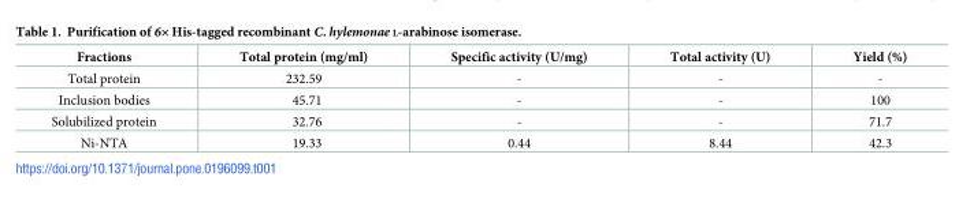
<table><thead><tr><td>Fractions</td><td>Total protein (mg/ml)</td><td>Specific activity (U/mg)</td><td>Total activity (U)</td><td>Yield (%)</td></tr></thead><tbody><tr><td>Total protein</td><td>232.59</td><td>-</td><td>-</td><td>-</td></tr><tr><td>Inclusion bodies</td><td>45.71</td><td>-</td><td>-</td><td>100</td></tr><tr><td>Solubilized protein</td><td>32.76</td><td>-</td><td>-</td><td>71.7</td></tr><tr><td>Ni-NTA</td><td>19.33</td><td>0.44</td><td>8.44</td><td>42.3</td></tr></tbody></table>